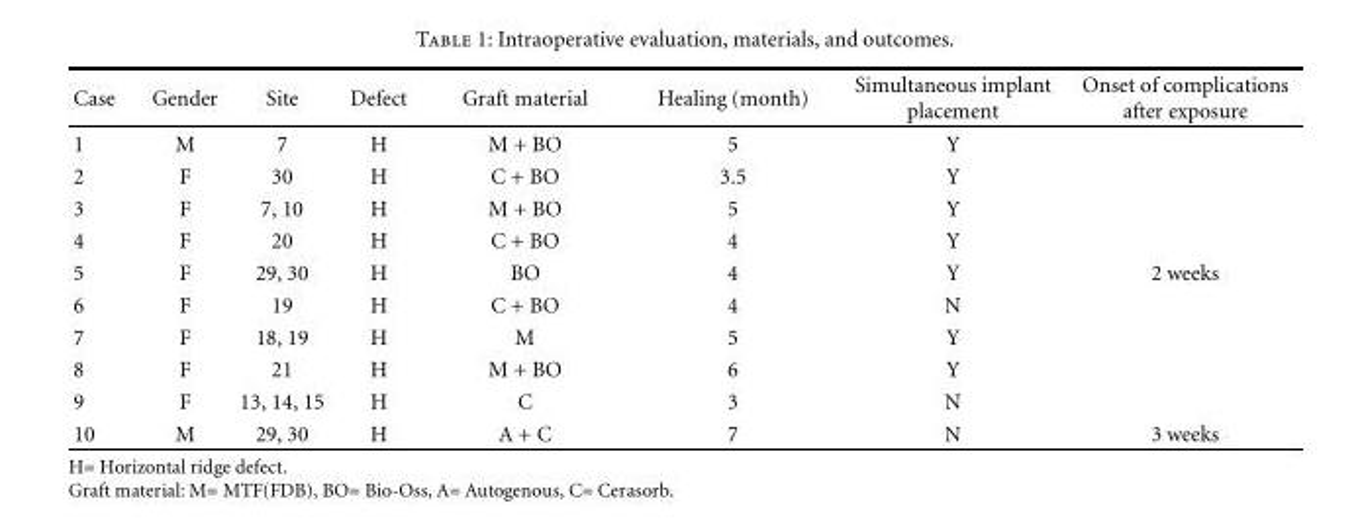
<table><thead><tr><td>Case</td><td>Gender</td><td>Site</td><td>Defect</td><td>Graft material</td><td>Healing (month)</td><td>Simultaneous implant placement</td><td>Onset of complications after exposure</td></tr></thead><tbody><tr><td>1</td><td>M</td><td>7</td><td>H</td><td>M + BO</td><td>5</td><td>Y</td><td></td></tr><tr><td>2</td><td>F</td><td>30</td><td>H</td><td>C + BO</td><td>3.5</td><td>Y</td><td></td></tr><tr><td>3</td><td>F</td><td>7, 10</td><td>H</td><td>M + BO</td><td>5</td><td>Y</td><td></td></tr><tr><td>4</td><td>F</td><td>20</td><td>H</td><td>C + BO</td><td>4</td><td>Y</td><td></td></tr><tr><td>5</td><td>F</td><td>29, 30</td><td>H</td><td>BO</td><td>4</td><td>Y</td><td>2 weeks</td></tr><tr><td>6</td><td>F</td><td>19</td><td>H</td><td>C + BO</td><td>4</td><td>N</td><td></td></tr><tr><td>7</td><td>F</td><td>18, 19</td><td>H</td><td>M</td><td>5</td><td>Y</td><td></td></tr><tr><td>8</td><td>F</td><td>21</td><td>H</td><td>M + BO</td><td>6</td><td>Y</td><td></td></tr><tr><td>9</td><td>F</td><td>13, 14, 15</td><td>H</td><td>C</td><td>3</td><td>N</td><td></td></tr><tr><td>10</td><td>M</td><td>29, 30</td><td>H</td><td>A + C</td><td>7</td><td>N</td><td>3 weeks</td></tr></tbody></table>